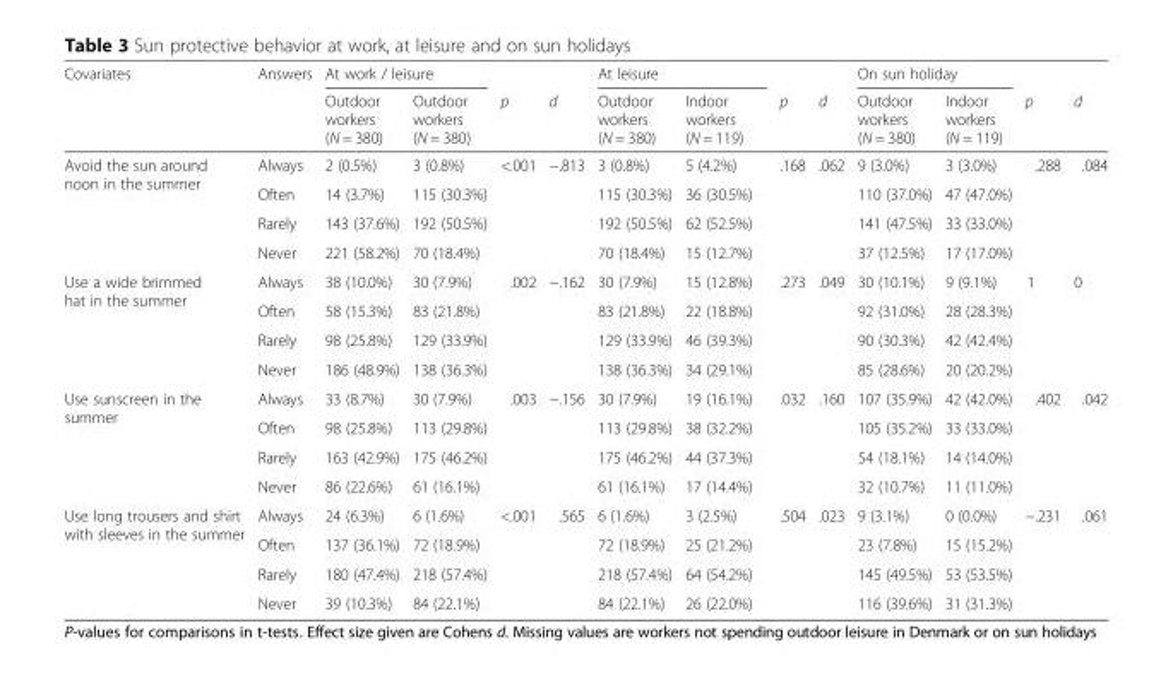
<table><thead><tr><td rowspan="2">Covariates</td><td rowspan="2">Answers</td><td colspan="2">At work / leisure</td><td rowspan="2">p</td><td rowspan="2">d</td><td colspan="2">At leisure</td><td rowspan="2">p</td><td rowspan="2">d</td><td colspan="2">On sun holiday</td><td rowspan="2">p</td><td rowspan="2">d</td></tr><tr><td>Outdoor workers (N = 380)</td><td>Outdoor workers (N = 380)</td><td>Outdoor workers (N = 380)</td><td>Indoor workers (N = 119)</td><td>Outdoor workers (N = 380)</td><td>Indoor workers (N = 119)</td></tr></thead><tbody><tr><td rowspan="4">Avoid the sun around noon in the summer</td><td>Always</td><td>2 (0.5%)</td><td>3 (0.8%)</td><td rowspan="4">&lt;.001</td><td rowspan="4">−.813</td><td>3 (0.8%)</td><td>5 (4.2%)</td><td rowspan="4">.168</td><td rowspan="4">.062</td><td>9 (3.0%)</td><td>3 (3.0%)</td><td rowspan="4">.288</td><td rowspan="4">.084</td></tr><tr><td>Often</td><td>14 (3.7%)</td><td>115 (30.3%)</td><td>115 (30.3%)</td><td>36 (30.5%)</td><td>110 (37.0%)</td><td>47 (47.0%)</td></tr><tr><td>Rarely</td><td>143 (37.6%)</td><td>192 (50.5%)</td><td>192 (50.5%)</td><td>62 (52.5%)</td><td>141 (47.5%)</td><td>33 (33.0%)</td></tr><tr><td>Never</td><td>221 (58.2%)</td><td>70 (18.4%)</td><td>70 (18.4%)</td><td>15 (12.7%)</td><td>37 (12.5%)</td><td>17 (17.0%)</td></tr><tr><td rowspan="4">Use a wide brimmed hat in the summer</td><td>Always</td><td>38 (10.0%)</td><td>30 (7.9%)</td><td rowspan="4">.002</td><td rowspan="4">−.162</td><td>30 (7.9%)</td><td>15 (12.8%)</td><td rowspan="4">.273</td><td rowspan="4">.049</td><td>30 (10.1%)</td><td>9 (9.1%)</td><td rowspan="4">1</td><td rowspan="4">0</td></tr><tr><td>Often</td><td>58 (15.3%)</td><td>83 (21.8%)</td><td>83 (21.8%)</td><td>22 (18.8%)</td><td>92 (31.0%)</td><td>28 (28.3%)</td></tr><tr><td>Rarely</td><td>98 (25.8%)</td><td>129 (33.9%)</td><td>129 (33.9%)</td><td>46 (39.3%)</td><td>90 (30.3%)</td><td>42 (42.4%)</td></tr><tr><td>Never</td><td>186 (48.9%)</td><td>138 (36.3%)</td><td>138 (36.3%)</td><td>34 (29.1%)</td><td>85 (28.6%)</td><td>20 (20.2%)</td></tr><tr><td rowspan="4">Use sunscreen in the summer</td><td>Always</td><td>33 (8.7%)</td><td>30 (7.9%)</td><td rowspan="4">.003</td><td rowspan="4">−.156</td><td>30 (7.9%)</td><td>19 (16.1%)</td><td rowspan="4">.032</td><td rowspan="4">.160</td><td>107 (35.9%)</td><td>42 (42.0%)</td><td rowspan="4">.402</td><td rowspan="4">.042</td></tr><tr><td>Often</td><td>98 (25.8%)</td><td>113 (29.8%)</td><td>113 (29.8%)</td><td>38 (32.2%)</td><td>105 (35.2%)</td><td>33 (33.0%)</td></tr><tr><td>Rarely</td><td>163 (42.9%)</td><td>175 (46.2%)</td><td>175 (46.2%)</td><td>44 (37.3%)</td><td>54 (18.1%)</td><td>14 (14.0%)</td></tr><tr><td>Never</td><td>86 (22.6%)</td><td>61 (16.1%)</td><td>61 (16.1%)</td><td>17 (14.4%)</td><td>32 (10.7%)</td><td>11 (11.0%)</td></tr><tr><td rowspan="4">Use long trousers and shirt with sleeves in the summer</td><td>Always</td><td>24 (6.3%)</td><td>6 (1.6%)</td><td rowspan="4">&lt;.001</td><td rowspan="4">.565</td><td>6 (1.6%)</td><td>3 (2.5%)</td><td rowspan="4">.504</td><td rowspan="4">.023</td><td>9 (3.1%)</td><td>0 (0.0%)</td><td rowspan="4">−.231</td><td rowspan="4">.061</td></tr><tr><td>Often</td><td>137 (36.1%)</td><td>72 (18.9%)</td><td>72 (18.9%)</td><td>25 (21.2%)</td><td>23 (7.8%)</td><td>15 (15.2%)</td></tr><tr><td>Rarely</td><td>180 (47.4%)</td><td>218 (57.4%)</td><td>218 (57.4%)</td><td>64 (54.2%)</td><td>145 (49.5%)</td><td>53 (53.5%)</td></tr><tr><td>Never</td><td>39 (10.3%)</td><td>84 (22.1%)</td><td>84 (22.1%)</td><td>26 (22.0%)</td><td>116 (39.6%)</td><td>31 (31.3%)</td></tr></tbody></table>